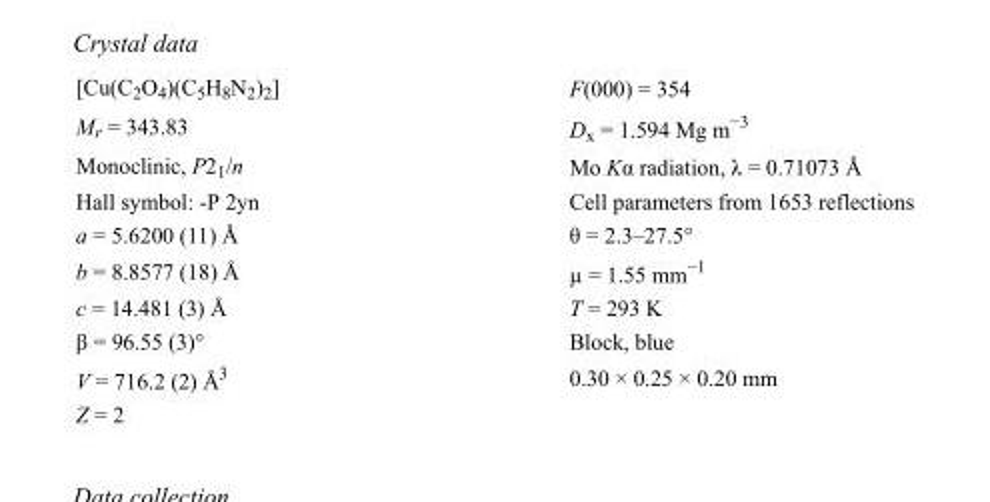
<table><tbody><tr><td>[Cu(C<sub>2</sub>O<sub>4</sub>)(C<sub>5</sub>H<sub>8</sub>N<sub>2</sub>)<sub>2</sub>]</td><td>F(000) = 354</td></tr><tr><td>M<sub>r</sub> = 343.83</td><td>D<sub>x</sub> = 1.594 Mg m<sup>−3</sup></td></tr><tr><td>Monoclinic, P2<sub>1</sub>/n</td><td>Mo Kα radiation, λ = 0.71073 Å</td></tr><tr><td>Hall symbol: -P 2yn</td><td>Cell parameters from 1653 reflections</td></tr><tr><td>a = 5.6200 (11) Å</td><td>θ = 2.3–27.5°</td></tr><tr><td>b = 8.8577 (18) Å</td><td>µ = 1.55 mm<sup>−1</sup></td></tr><tr><td>c = 14.481 (3) Å</td><td>T = 293 K</td></tr><tr><td>β = 96.55 (3)°</td><td>Block, blue</td></tr><tr><td>V = 716.2 (2) Å<sup>3</sup></td><td>0.30 × 0.25 × 0.20 mm</td></tr><tr><td>Z = 2</td><td></td></tr></tbody></table>